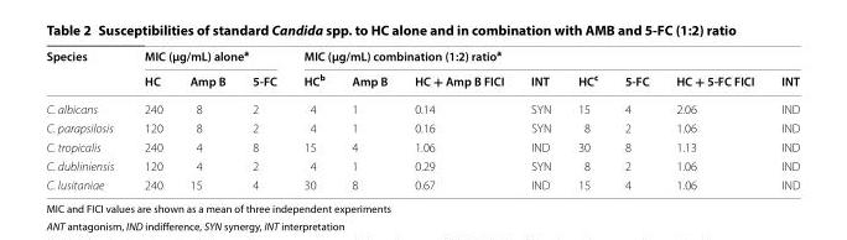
<table><thead><tr><td rowspan="2">Species</td><td colspan="3">MIC (µg/mL) alone<sup>a</sup></td><td colspan="8">MIC (µg/mL) combination (1:2) ratio<sup>a</sup></td></tr><tr><td>HC</td><td>Amp B</td><td>5‑FC</td><td>HC<sup>b</sup></td><td>Amp B</td><td>HC + Amp B FICI</td><td>INT</td><td>HC<sup>c</sup></td><td>5‑FC</td><td>HC + 5‑FC FICI</td><td>INT</td></tr></thead><tbody><tr><td>C. albicans</td><td>240</td><td>8</td><td>2</td><td>4</td><td>1</td><td>0.14</td><td>SYN</td><td>15</td><td>4</td><td>2.06</td><td>IND</td></tr><tr><td>C. parapsilosis</td><td>120</td><td>8</td><td>2</td><td>4</td><td>1</td><td>0.16</td><td>SYN</td><td>8</td><td>2</td><td>1.06</td><td>IND</td></tr><tr><td>C. tropicalis</td><td>240</td><td>4</td><td>8</td><td>15</td><td>4</td><td>1.06</td><td>IND</td><td>30</td><td>8</td><td>1.13</td><td>IND</td></tr><tr><td>C. dubliniensis</td><td>120</td><td>4</td><td>2</td><td>4</td><td>1</td><td>0.29</td><td>SYN</td><td>8</td><td>2</td><td>1.06</td><td>IND</td></tr><tr><td>C. lusitaniae</td><td>240</td><td>15</td><td>4</td><td>30</td><td>8</td><td>0.67</td><td>IND</td><td>15</td><td>4</td><td>1.06</td><td>IND</td></tr></tbody></table>